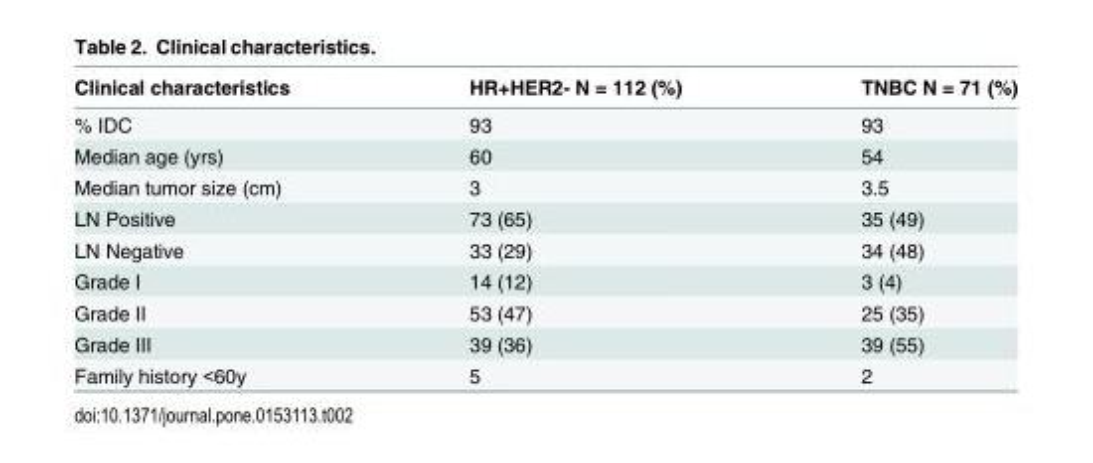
<table><thead><tr><td>Clinical characteristics</td><td>HR+HER2- N = 112 (%)</td><td>TNBC N = 71 (%)</td></tr></thead><tbody><tr><td>% IDC</td><td>93</td><td>93</td></tr><tr><td>Median age (yrs)</td><td>60</td><td>54</td></tr><tr><td>Median tumor size (cm)</td><td>3</td><td>3.5</td></tr><tr><td>LN Positive</td><td>73 (65)</td><td>35 (49)</td></tr><tr><td>LN Negative</td><td>33 (29)</td><td>34 (48)</td></tr><tr><td>Grade I</td><td>14 (12)</td><td>3 (4)</td></tr><tr><td>Grade II</td><td>53 (47)</td><td>25 (35)</td></tr><tr><td>Grade III</td><td>39 (36)</td><td>39 (55)</td></tr><tr><td>Family history &lt;60y</td><td>5</td><td>2</td></tr></tbody></table>